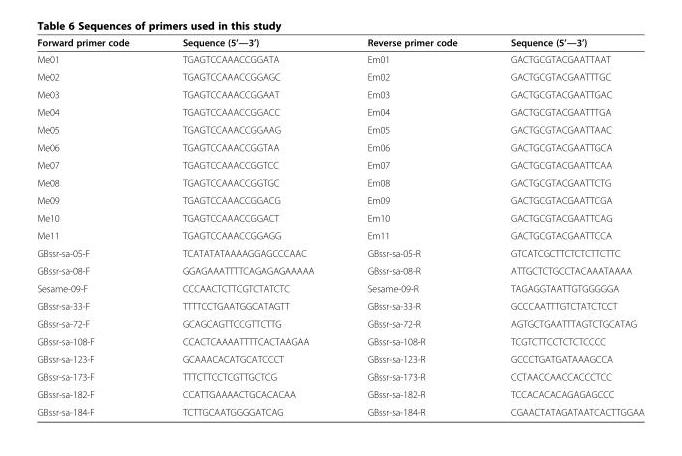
<table><thead><tr><td>Forward primer code</td><td>Sequence (5’—3’)</td><td>Reverse primer code</td><td>Sequence (5’—3’)</td></tr></thead><tbody><tr><td>Me01</td><td>TGAGTCCAAACCGGATA</td><td>Em01</td><td>GACTGCGTACGAATTAAT</td></tr><tr><td>Me02</td><td>TGAGTCCAAACCGGAGC</td><td>Em02</td><td>GACTGCGTACGAATTTGC</td></tr><tr><td>Me03</td><td>TGAGTCCAAACCGGAAT</td><td>Em03</td><td>GACTGCGTACGAATTGAC</td></tr><tr><td>Me04</td><td>TGAGTCCAAACCGGACC</td><td>Em04</td><td>GACTGCGTACGAATTTGA</td></tr><tr><td>Me05</td><td>TGAGTCCAAACCGGAAG</td><td>Em05</td><td>GACTGCGTACGAATTAAC</td></tr><tr><td>Me06</td><td>TGAGTCCAAACCGGTAA</td><td>Em06</td><td>GACTGCGTACGAATTGCA</td></tr><tr><td>Me07</td><td>TGAGTCCAAACCGGTCC</td><td>Em07</td><td>GACTGCGTACGAATTCAA</td></tr><tr><td>Me08</td><td>TGAGTCCAAACCGGTGC</td><td>Em08</td><td>GACTGCGTACGAATTCTG</td></tr><tr><td>Me09</td><td>TGAGTCCAAACCGGACG</td><td>Em09</td><td>GACTGCGTACGAATTCGA</td></tr><tr><td>Me10</td><td>TGAGTCCAAACCGGACT</td><td>Em10</td><td>GACTGCGTACGAATTCAG</td></tr><tr><td>Me11</td><td>TGAGTCCAAACCGGAGG</td><td>Em11</td><td>GACTGCGTACGAATTCCA</td></tr><tr><td>GBssr-sa-05-F</td><td>TCATATATAAAAGGAGCCCAAC</td><td>GBssr-sa-05-R</td><td>GTCATCGCTTCTCTCTTCTTC</td></tr><tr><td>GBssr-sa-08-F</td><td>GGAGAAATTTTCAGAGAGAAAAA</td><td>GBssr-sa-08-R</td><td>ATTGCTCTGCCTACAAATAAAA</td></tr><tr><td>Sesame-09-F</td><td>CCCAACTCTTCGTCTATCTC</td><td>Sesame-09-R</td><td>TAGAGGTAATTGTGGGGGA</td></tr><tr><td>GBssr-sa-33-F</td><td>TTTTCCTGAATGGCATAGTT</td><td>GBssr-sa-33-R</td><td>GCCCAATTTGTCTATCTCCT</td></tr><tr><td>GBssr-sa-72-F</td><td>GCAGCAGTTCCGTTCTTG</td><td>GBssr-sa-72-R</td><td>AGTGCTGAATTTAGTCTGCATAG</td></tr><tr><td>GBssr-sa-108-F</td><td>CCACTCAAAATTTTCACTAAGAA</td><td>GBssr-sa-108-R</td><td>TCGTCTTCCTCTCTCCCC</td></tr><tr><td>GBssr-sa-123-F</td><td>GCAAACACATGCATCCCT</td><td>GBssr-sa-123-R</td><td>GCCCTGATGATAAAGCCA</td></tr><tr><td>GBssr-sa-173-F</td><td>TTTCTTCCTCGTTGCTCG</td><td>GBssr-sa-173-R</td><td>CCTAACCAACCACCCTCC</td></tr><tr><td>GBssr-sa-182-F</td><td>CCATTGAAAACTGCACACAA</td><td>GBssr-sa-182-R</td><td>TCCACACACAGAGAGCCC</td></tr><tr><td>GBssr-sa-184-F</td><td>TCTTGCAATGGGGATCAG</td><td>GBssr-sa-184-R</td><td>CGAACTATAGATAATCACTTGGAA</td></tr></tbody></table>